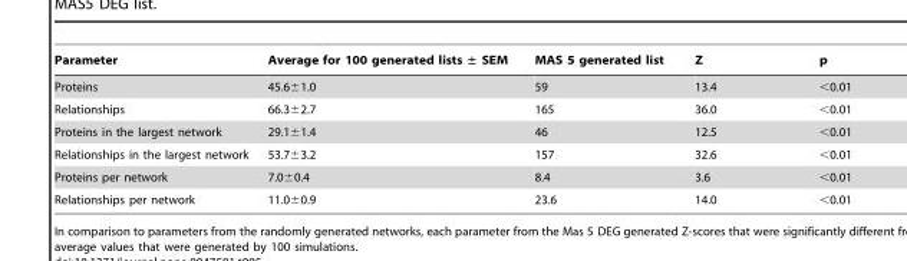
<table><thead><tr><td>Parameter</td><td>Average for 100 generated lists ± SEM</td><td>MAS 5 generated list</td><td>Z</td><td>p</td></tr></thead><tbody><tr><td>Proteins</td><td>45.6±1.0</td><td>59</td><td>13.4</td><td>&lt;0.01</td></tr><tr><td>Relationships</td><td>66.3±2.7</td><td>165</td><td>36.0</td><td>&lt;0.01</td></tr><tr><td>Proteins in the largest network</td><td>29.1±1.4</td><td>46</td><td>12.5</td><td>&lt;0.01</td></tr><tr><td>Relationships in the largest network</td><td>53.7±3.2</td><td>157</td><td>32.6</td><td>&lt;0.01</td></tr><tr><td>Proteins per network</td><td>7.0±0.4</td><td>8.4</td><td>3.6</td><td>&lt;0.01</td></tr><tr><td>Relationships per network</td><td>11.0±0.9</td><td>23.6</td><td>14.0</td><td>&lt;0.01</td></tr></tbody></table>